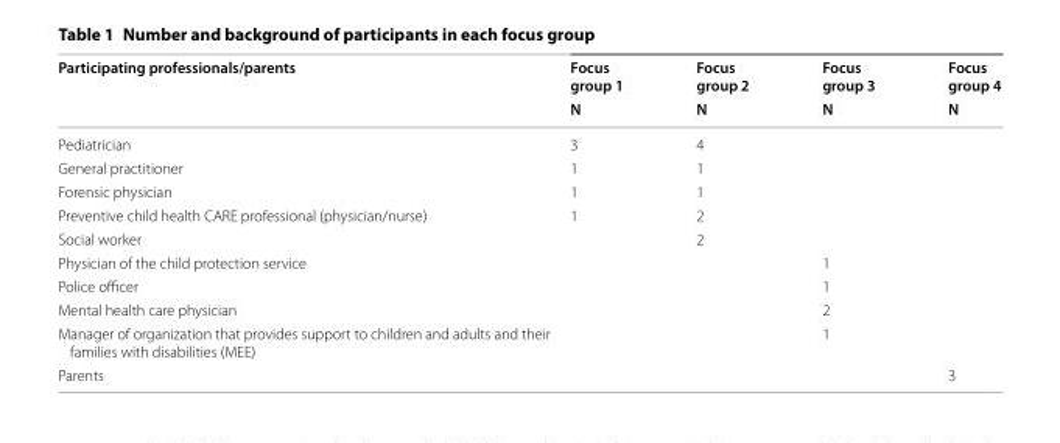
<table><thead><tr><td rowspan="2">Participating professionals/parents</td><td rowspan="2">Focus group 1 N</td><td rowspan="2">Focus group 2 N</td><td rowspan="2">Focus group 3 N</td><td rowspan="2">Focus group 4 N</td></tr><tr></tr></thead><tbody><tr><td>Pediatrician</td><td>3</td><td>4</td><td></td><td></td></tr><tr><td>General practitioner</td><td>1</td><td>1</td><td></td><td></td></tr><tr><td>Forensic physician</td><td>1</td><td>1</td><td></td><td></td></tr><tr><td>Preventive child health CARE professional (physician/nurse)</td><td>1</td><td>2</td><td></td><td></td></tr><tr><td>Social worker</td><td></td><td>2</td><td></td><td></td></tr><tr><td>Physician of the child protection service</td><td></td><td></td><td>1</td><td></td></tr><tr><td>Police officer</td><td></td><td></td><td>1</td><td></td></tr><tr><td>Mental health care physician</td><td></td><td></td><td>2</td><td></td></tr><tr><td>Manager of organization that provides support to children and adults and their families with disabilities (MEE)</td><td></td><td></td><td>1</td><td></td></tr><tr><td>Parents</td><td></td><td></td><td></td><td>3</td></tr></tbody></table>